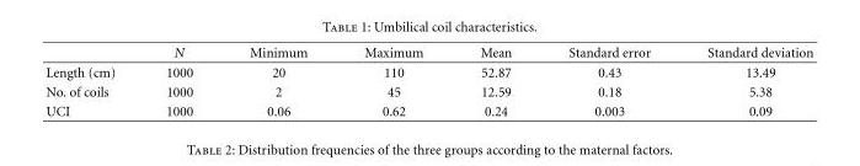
<table><thead><tr><td></td><td>N</td><td>Minimum</td><td>Maximum</td><td>Mean</td><td>Standard error</td><td>Standard deviation</td></tr></thead><tbody><tr><td>Length (cm)</td><td>1000</td><td>20</td><td>110</td><td>52.87</td><td>0.43</td><td>13.49</td></tr><tr><td>No. of coils</td><td>1000</td><td>2</td><td>45</td><td>12.59</td><td>0.18</td><td>5.38</td></tr><tr><td>UCI</td><td>1000</td><td>0.06</td><td>0.62</td><td>0.24</td><td>0.003</td><td>0.09</td></tr></tbody></table>